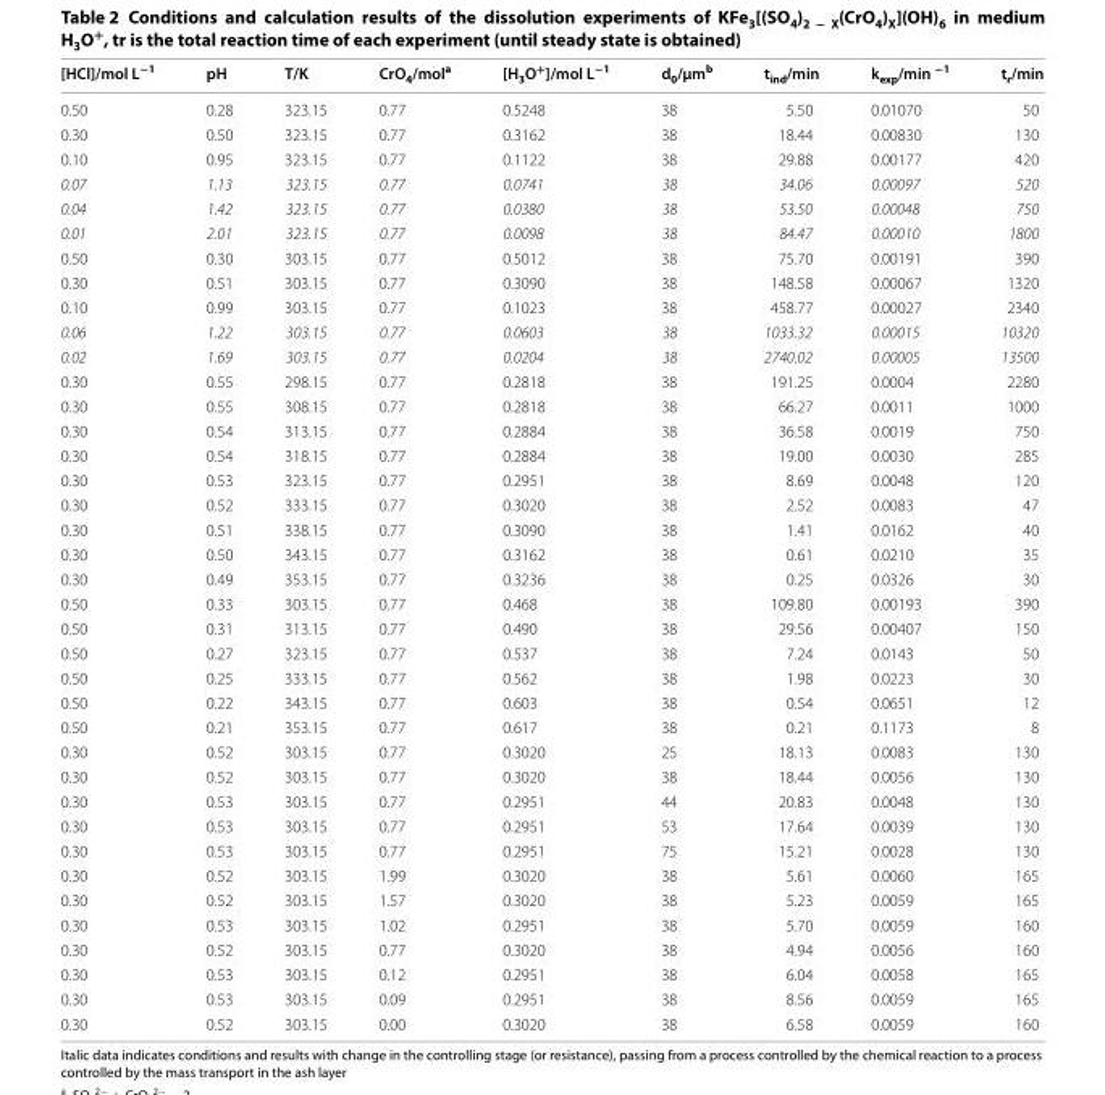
<table><thead><tr><td>[HCl]/mol L<sup>−1</sup></td><td>pH</td><td>T/K</td><td>CrO<sub>4</sub>/mol<sup>a</sup></td><td>[H<sub>3</sub>O<sup>+</sup>]/mol L<sup>−1</sup></td><td>d<sub>0</sub>/µm<sup>b</sup></td><td>t<sub>ind</sub>/min</td><td>k<sub>exp</sub>/min <sup>−1</sup></td><td>t<sub>r</sub>/min</td></tr></thead><tbody><tr><td>0.50</td><td>0.28</td><td>323.15</td><td>0.77</td><td>0.5248</td><td>38</td><td>5.50</td><td>0.01070</td><td>50</td></tr><tr><td>0.30</td><td>0.50</td><td>323.15</td><td>0.77</td><td>0.3162</td><td>38</td><td>18.44</td><td>0.00830</td><td>130</td></tr><tr><td>0.10</td><td>0.95</td><td>323.15</td><td>0.77</td><td>0.1122</td><td>38</td><td>29.88</td><td>0.00177</td><td>420</td></tr><tr><td>0.07</td><td>1.13</td><td>323.15</td><td>0.77</td><td>0.0741</td><td>38</td><td>34.06</td><td>0.00097</td><td>520</td></tr><tr><td>0.04</td><td>1.42</td><td>323.15</td><td>0.77</td><td>0.0380</td><td>38</td><td>53.50</td><td>0.00048</td><td>750</td></tr><tr><td>0.01</td><td>2.01</td><td>323.15</td><td>0.77</td><td>0.0098</td><td>38</td><td>84.47</td><td>0.00010</td><td>1800</td></tr><tr><td>0.50</td><td>0.30</td><td>303.15</td><td>0.77</td><td>0.5012</td><td>38</td><td>75.70</td><td>0.00191</td><td>390</td></tr><tr><td>0.30</td><td>0.51</td><td>303.15</td><td>0.77</td><td>0.3090</td><td>38</td><td>148.58</td><td>0.00067</td><td>1320</td></tr><tr><td>0.10</td><td>0.99</td><td>303.15</td><td>0.77</td><td>0.1023</td><td>38</td><td>458.77</td><td>0.00027</td><td>2340</td></tr><tr><td>0.06</td><td>1.22</td><td>303.15</td><td>0.77</td><td>0.0603</td><td>38</td><td>1033.32</td><td>0.00015</td><td>10320</td></tr><tr><td>0.02</td><td>1.69</td><td>303.15</td><td>0.77</td><td>0.0204</td><td>38</td><td>2740.02</td><td>0.00005</td><td>13500</td></tr><tr><td>0.30</td><td>0.55</td><td>298.15</td><td>0.77</td><td>0.2818</td><td>38</td><td>191.25</td><td>0.0004</td><td>2280</td></tr><tr><td>0.30</td><td>0.55</td><td>308.15</td><td>0.77</td><td>0.2818</td><td>38</td><td>66.27</td><td>0.0011</td><td>1000</td></tr><tr><td>0.30</td><td>0.54</td><td>313.15</td><td>0.77</td><td>0.2884</td><td>38</td><td>36.58</td><td>0.0019</td><td>750</td></tr><tr><td>0.30</td><td>0.54</td><td>318.15</td><td>0.77</td><td>0.2884</td><td>38</td><td>19.00</td><td>0.0030</td><td>285</td></tr><tr><td>0.30</td><td>0.53</td><td>323.15</td><td>0.77</td><td>0.2951</td><td>38</td><td>8.69</td><td>0.0048</td><td>120</td></tr><tr><td>0.30</td><td>0.52</td><td>333.15</td><td>0.77</td><td>0.3020</td><td>38</td><td>2.52</td><td>0.0083</td><td>47</td></tr><tr><td>0.30</td><td>0.51</td><td>338.15</td><td>0.77</td><td>0.3090</td><td>38</td><td>1.41</td><td>0.0162</td><td>40</td></tr><tr><td>0.30</td><td>0.50</td><td>343.15</td><td>0.77</td><td>0.3162</td><td>38</td><td>0.61</td><td>0.0210</td><td>35</td></tr><tr><td>0.30</td><td>0.49</td><td>353.15</td><td>0.77</td><td>0.3236</td><td>38</td><td>0.25</td><td>0.0326</td><td>30</td></tr><tr><td>0.50</td><td>0.33</td><td>303.15</td><td>0.77</td><td>0.468</td><td>38</td><td>109.80</td><td>0.00193</td><td>390</td></tr><tr><td>0.50</td><td>0.31</td><td>313.15</td><td>0.77</td><td>0.490</td><td>38</td><td>29.56</td><td>0.00407</td><td>150</td></tr><tr><td>0.50</td><td>0.27</td><td>323.15</td><td>0.77</td><td>0.537</td><td>38</td><td>7.24</td><td>0.0143</td><td>50</td></tr><tr><td>0.50</td><td>0.25</td><td>333.15</td><td>0.77</td><td>0.562</td><td>38</td><td>1.98</td><td>0.0223</td><td>30</td></tr><tr><td>0.50</td><td>0.22</td><td>343.15</td><td>0.77</td><td>0.603</td><td>38</td><td>0.54</td><td>0.0651</td><td>12</td></tr><tr><td>0.50</td><td>0.21</td><td>353.15</td><td>0.77</td><td>0.617</td><td>38</td><td>0.21</td><td>0.1173</td><td>8</td></tr><tr><td>0.30</td><td>0.52</td><td>303.15</td><td>0.77</td><td>0.3020</td><td>25</td><td>18.13</td><td>0.0083</td><td>130</td></tr><tr><td>0.30</td><td>0.52</td><td>303.15</td><td>0.77</td><td>0.3020</td><td>38</td><td>18.44</td><td>0.0056</td><td>130</td></tr><tr><td>0.30</td><td>0.53</td><td>303.15</td><td>0.77</td><td>0.2951</td><td>44</td><td>20.83</td><td>0.0048</td><td>130</td></tr><tr><td>0.30</td><td>0.53</td><td>303.15</td><td>0.77</td><td>0.2951</td><td>53</td><td>17.64</td><td>0.0039</td><td>130</td></tr><tr><td>0.30</td><td>0.53</td><td>303.15</td><td>0.77</td><td>0.2951</td><td>75</td><td>15.21</td><td>0.0028</td><td>130</td></tr><tr><td>0.30</td><td>0.52</td><td>303.15</td><td>1.99</td><td>0.3020</td><td>38</td><td>5.61</td><td>0.0060</td><td>165</td></tr><tr><td>0.30</td><td>0.52</td><td>303.15</td><td>1.57</td><td>0.3020</td><td>38</td><td>5.23</td><td>0.0059</td><td>165</td></tr><tr><td>0.30</td><td>0.53</td><td>303.15</td><td>1.02</td><td>0.2951</td><td>38</td><td>5.70</td><td>0.0059</td><td>160</td></tr><tr><td>0.30</td><td>0.52</td><td>303.15</td><td>0.77</td><td>0.3020</td><td>38</td><td>4.94</td><td>0.0056</td><td>160</td></tr><tr><td>0.30</td><td>0.53</td><td>303.15</td><td>0.12</td><td>0.2951</td><td>38</td><td>6.04</td><td>0.0058</td><td>165</td></tr><tr><td>0.30</td><td>0.53</td><td>303.15</td><td>0.09</td><td>0.2951</td><td>38</td><td>8.56</td><td>0.0059</td><td>165</td></tr><tr><td>0.30</td><td>0.52</td><td>303.15</td><td>0.00</td><td>0.3020</td><td>38</td><td>6.58</td><td>0.0059</td><td>160</td></tr></tbody></table>